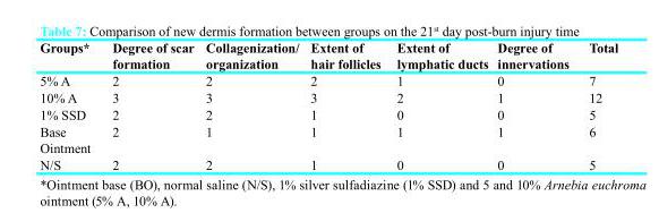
<table><thead><tr><td>Groups*</td><td>Degree of scar formation</td><td>Collagenization/ organization</td><td>Extent of hair follicles</td><td>Extent of lymphatic ducts</td><td>Degree of innervations</td><td>Total</td></tr></thead><tbody><tr><td>5% A</td><td>2</td><td>2</td><td>2</td><td>1</td><td>0</td><td>7</td></tr><tr><td>10% A</td><td>3</td><td>3</td><td>3</td><td>2</td><td>1</td><td>12</td></tr><tr><td>1% SSD</td><td>2</td><td>2</td><td>1</td><td>0</td><td>0</td><td>5</td></tr><tr><td>Base Ointment</td><td>2</td><td>1</td><td>1</td><td>1</td><td>1</td><td>6</td></tr><tr><td>N/S</td><td>2</td><td>2</td><td>1</td><td>0</td><td>0</td><td>5</td></tr></tbody></table>